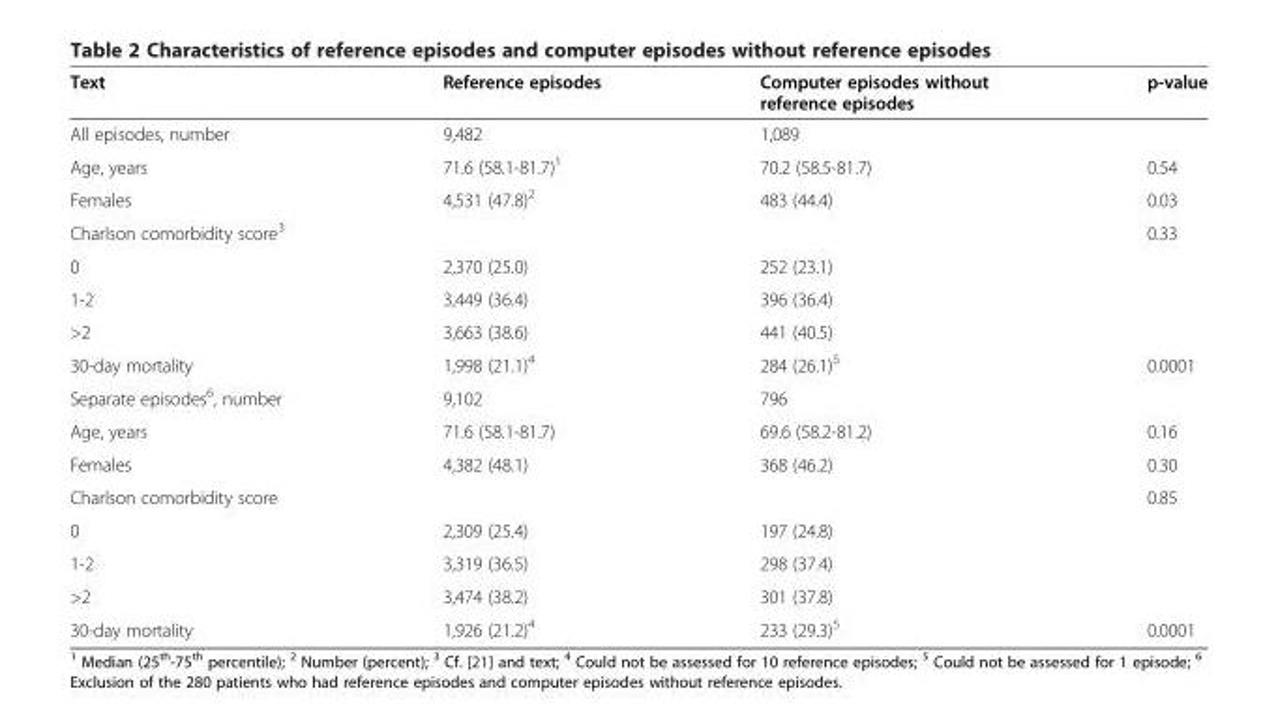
<table><thead><tr><td>Text</td><td>Reference episodes</td><td>Computer episodes without reference episodes</td><td>p-value</td></tr></thead><tbody><tr><td>All episodes, number</td><td>9,482</td><td>1,089</td><td></td></tr><tr><td>Age, years</td><td>71.6 (58.1-81.7)<sup>1</sup></td><td>70.2 (58.5-81.7)</td><td>0.54</td></tr><tr><td>Females</td><td>4,531 (47.8)<sup>2</sup></td><td>483 (44.4)</td><td>0.03</td></tr><tr><td>Charlson comorbidity score<sup>3</sup></td><td></td><td></td><td>0.33</td></tr><tr><td>0</td><td>2,370 (25.0)</td><td>252 (23.1)</td><td></td></tr><tr><td>1-2</td><td>3,449 (36.4)</td><td>396 (36.4)</td><td></td></tr><tr><td>&gt;2</td><td>3,663 (38.6)</td><td>441 (40.5)</td><td></td></tr><tr><td>30-day mortality</td><td>1,998 (21.1)<sup>4</sup></td><td>284 (26.1)<sup>5</sup></td><td>0.0001</td></tr><tr><td>Separate episodes<sup>6</sup>, number</td><td>9,102</td><td>796</td><td></td></tr><tr><td>Age, years</td><td>71.6 (58.1-81.7)</td><td>69.6 (58.2-81.2)</td><td>0.16</td></tr><tr><td>Females</td><td>4,382 (48.1)</td><td>368 (46.2)</td><td>0.30</td></tr><tr><td>Charlson comorbidity score</td><td></td><td></td><td>0.85</td></tr><tr><td>0</td><td>2,309 (25.4)</td><td>197 (24.8)</td><td></td></tr><tr><td>1-2</td><td>3,319 (36.5)</td><td>298 (37.4)</td><td></td></tr><tr><td>&gt;2</td><td>3,474 (38.2)</td><td>301 (37.8)</td><td></td></tr><tr><td>30-day mortality</td><td>1,926 (21.2)<sup>4</sup></td><td>233 (29.3)<sup>5</sup></td><td>0.0001</td></tr></tbody></table>